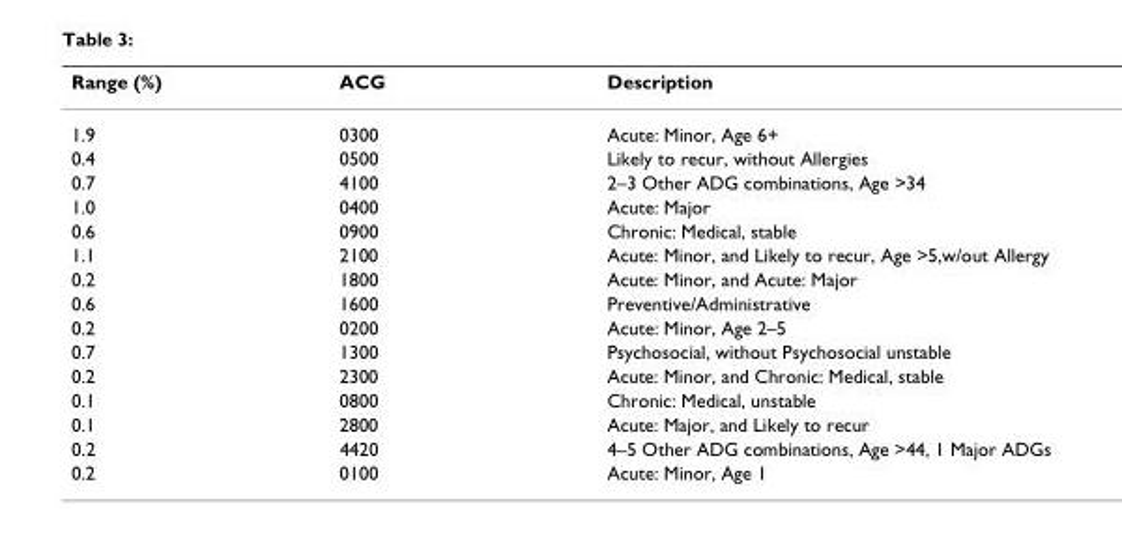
<table><thead><tr><td>Range (%)</td><td>ACG</td><td>Description</td></tr></thead><tbody><tr><td>1.9</td><td>0300</td><td>Acute: Minor, Age 6+</td></tr><tr><td>0.4</td><td>0500</td><td>Likely to recur, without Allergies</td></tr><tr><td>0.7</td><td>4100</td><td>2–3 Other ADG combinations, Age &gt;34</td></tr><tr><td>1.0</td><td>0400</td><td>Acute: Major</td></tr><tr><td>0.6</td><td>0900</td><td>Chronic: Medical, stable</td></tr><tr><td>1.1</td><td>2100</td><td>Acute: Minor, and Likely to recur, Age &gt;5,w/out Allergy</td></tr><tr><td>0.2</td><td>1800</td><td>Acute: Minor, and Acute: Major</td></tr><tr><td>0.6</td><td>1600</td><td>Preventive/Administrative</td></tr><tr><td>0.2</td><td>0200</td><td>Acute: Minor, Age 2–5</td></tr><tr><td>0.7</td><td>1300</td><td>Psychosocial, without Psychosocial unstable</td></tr><tr><td>0.2</td><td>2300</td><td>Acute: Minor, and Chronic: Medical, stable</td></tr><tr><td>0.1</td><td>0800</td><td>Chronic: Medical, unstable</td></tr><tr><td>0.1</td><td>2800</td><td>Acute: Major, and Likely to recur</td></tr><tr><td>0.2</td><td>4420</td><td>4–5 Other ADG combinations, Age &gt;44, 1 Major ADGs</td></tr><tr><td>0.2</td><td>0100</td><td>Acute: Minor, Age 1</td></tr></tbody></table>